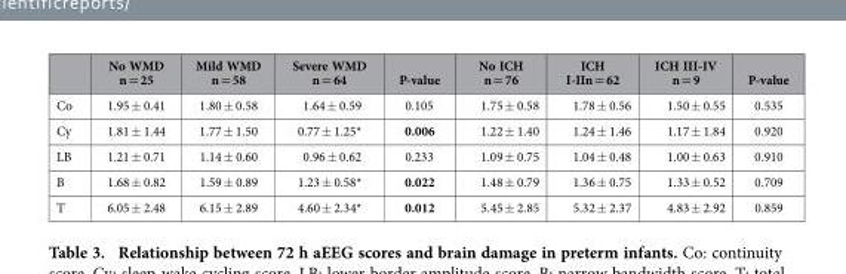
<table><thead><tr><td></td><td>No WMD n = 25</td><td>Mild WMD n = 58</td><td>Severe WMD n = 64</td><td>P-value</td><td>No ICH n = 76</td><td>ICH I-IIn = 62</td><td>ICH III-IV n = 9</td><td>P-value</td></tr></thead><tbody><tr><td>Co</td><td>1.95 ± 0.41</td><td>1.80 ± 0.58</td><td>1.64 ± 0.59</td><td>0.105</td><td>1.75 ± 0.58</td><td>1.78 ± 0.56</td><td>1.50 ± 0.55</td><td>0.535</td></tr><tr><td>Cy</td><td>1.81 ± 1.44</td><td>1.77 ± 1.50</td><td>0.77 ± 1.25*</td><td>0.006</td><td>1.22 ± 1.40</td><td>1.24 ± 1.46</td><td>1.17 ± 1.84</td><td>0.920</td></tr><tr><td>LB</td><td>1.21 ± 0.71</td><td>1.14 ± 0.60</td><td>0.96 ± 0.62</td><td>0.233</td><td>1.09 ± 0.75</td><td>1.04 ± 0.48</td><td>1.00 ± 0.63</td><td>0.910</td></tr><tr><td>B</td><td>1.68 ± 0.82</td><td>1.59 ± 0.89</td><td>1.23 ± 0.58*</td><td>0.022</td><td>1.48 ± 0.79</td><td>1.36 ± 0.75</td><td>1.33 ± 0.52</td><td>0.709</td></tr><tr><td>T</td><td>6.05 ± 2.48</td><td>6.15 ± 2.89</td><td>4.60 ± 2.34*</td><td>0.012</td><td>5.45 ± 2.85</td><td>5.32 ± 2.37</td><td>4.83 ± 2.92</td><td>0.859</td></tr></tbody></table>